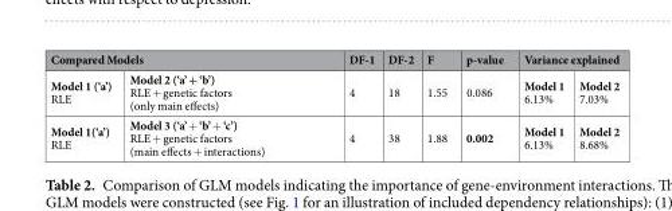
<table><thead><tr><td colspan="2">Compared Models</td><td rowspan="2">DF-1 4</td><td rowspan="2">DF-2 18</td><td rowspan="2">F 1.55</td><td rowspan="2">p-value 0.086</td><td colspan="2">Variance explained</td></tr><tr><td>Model 1 (‘a’) RLE</td><td>Model 2 (‘a’ + ‘b’) RLE + genetic factors (only main effects)</td><td>Model 1 6.13%</td><td>Model 2 7.03%</td></tr></thead><tbody><tr><td>Model 1(‘a’) RLE</td><td>Model 3 (‘a’ + ‘b’ + ‘c’) RLE + genetic factors (main effects + interactions)</td><td>4</td><td>38</td><td>1.88</td><td>0.002</td><td>Model 1 6.13%</td><td>Model 2 8.68%</td></tr></tbody></table>